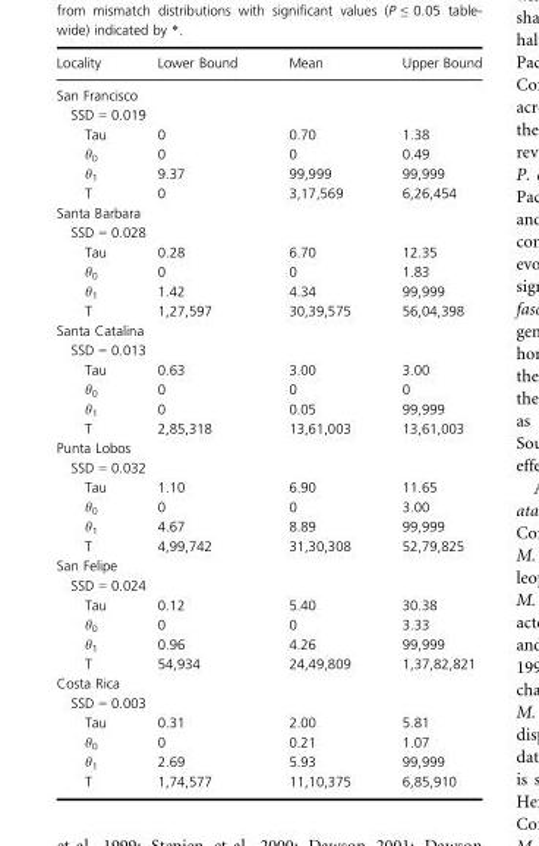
<table><thead><tr><td>Locality</td><td>Lower Bound</td><td>Mean</td><td>Upper Bound</td></tr></thead><tbody><tr><td colspan="4">San Francisco</td></tr><tr><td colspan="4">SSD = 0.019</td></tr><tr><td>Tau</td><td>0</td><td>0.70</td><td>1.38</td></tr><tr><td>θ<sub>0</sub></td><td>0</td><td>0</td><td>0.49</td></tr><tr><td>θ<sub>1</sub></td><td>9.37</td><td>99,999</td><td>99,999</td></tr><tr><td>T</td><td>0</td><td>3,17,569</td><td>6,26,454</td></tr><tr><td colspan="4">Santa Barbara</td></tr><tr><td colspan="4">SSD = 0.028</td></tr><tr><td>Tau</td><td>0.28</td><td>6.70</td><td>12.35</td></tr><tr><td>θ<sub>0</sub></td><td>0</td><td>0</td><td>1.83</td></tr><tr><td>θ<sub>1</sub></td><td>1.42</td><td>4.34</td><td>99,999</td></tr><tr><td>T</td><td>1,27,597</td><td>30,39,575</td><td>56,04,398</td></tr><tr><td colspan="4">Santa Catalina</td></tr><tr><td colspan="4">SSD = 0.013</td></tr><tr><td>Tau</td><td>0.63</td><td>3.00</td><td>3.00</td></tr><tr><td>θ<sub>0</sub></td><td>0</td><td>0</td><td>0</td></tr><tr><td>θ<sub>1</sub></td><td>0</td><td>0.05</td><td>99,999</td></tr><tr><td>T</td><td>2,85,318</td><td>13,61,003</td><td>13,61,003</td></tr><tr><td colspan="4">Punta Lobos</td></tr><tr><td colspan="4">SSD = 0.032</td></tr><tr><td>Tau</td><td>1.10</td><td>6.90</td><td>11.65</td></tr><tr><td>θ<sub>0</sub></td><td>0</td><td>0</td><td>3.00</td></tr><tr><td>θ<sub>1</sub></td><td>4.67</td><td>8.89</td><td>99,999</td></tr><tr><td>T</td><td>4,99,742</td><td>31,30,308</td><td>52,79,825</td></tr><tr><td colspan="4">San Felipe</td></tr><tr><td colspan="4">SSD = 0.024</td></tr><tr><td>Tau</td><td>0.12</td><td>5.40</td><td>30.38</td></tr><tr><td>θ<sub>0</sub></td><td>0</td><td>0</td><td>3.33</td></tr><tr><td>θ<sub>1</sub></td><td>0.96</td><td>4.26</td><td>99,999</td></tr><tr><td>T</td><td>54,934</td><td>24,49,809</td><td>1,37,82,821</td></tr><tr><td colspan="4">Costa Rica</td></tr><tr><td colspan="4">SSD = 0.003</td></tr><tr><td>Tau</td><td>0.31</td><td>2.00</td><td>5.81</td></tr><tr><td>θ<sub>0</sub></td><td>0</td><td>0.21</td><td>1.07</td></tr><tr><td>θ<sub>1</sub></td><td>2.69</td><td>5.93</td><td>99,999</td></tr><tr><td>T</td><td>1,74,577</td><td>11,10,375</td><td>6,85,910</td></tr></tbody></table>